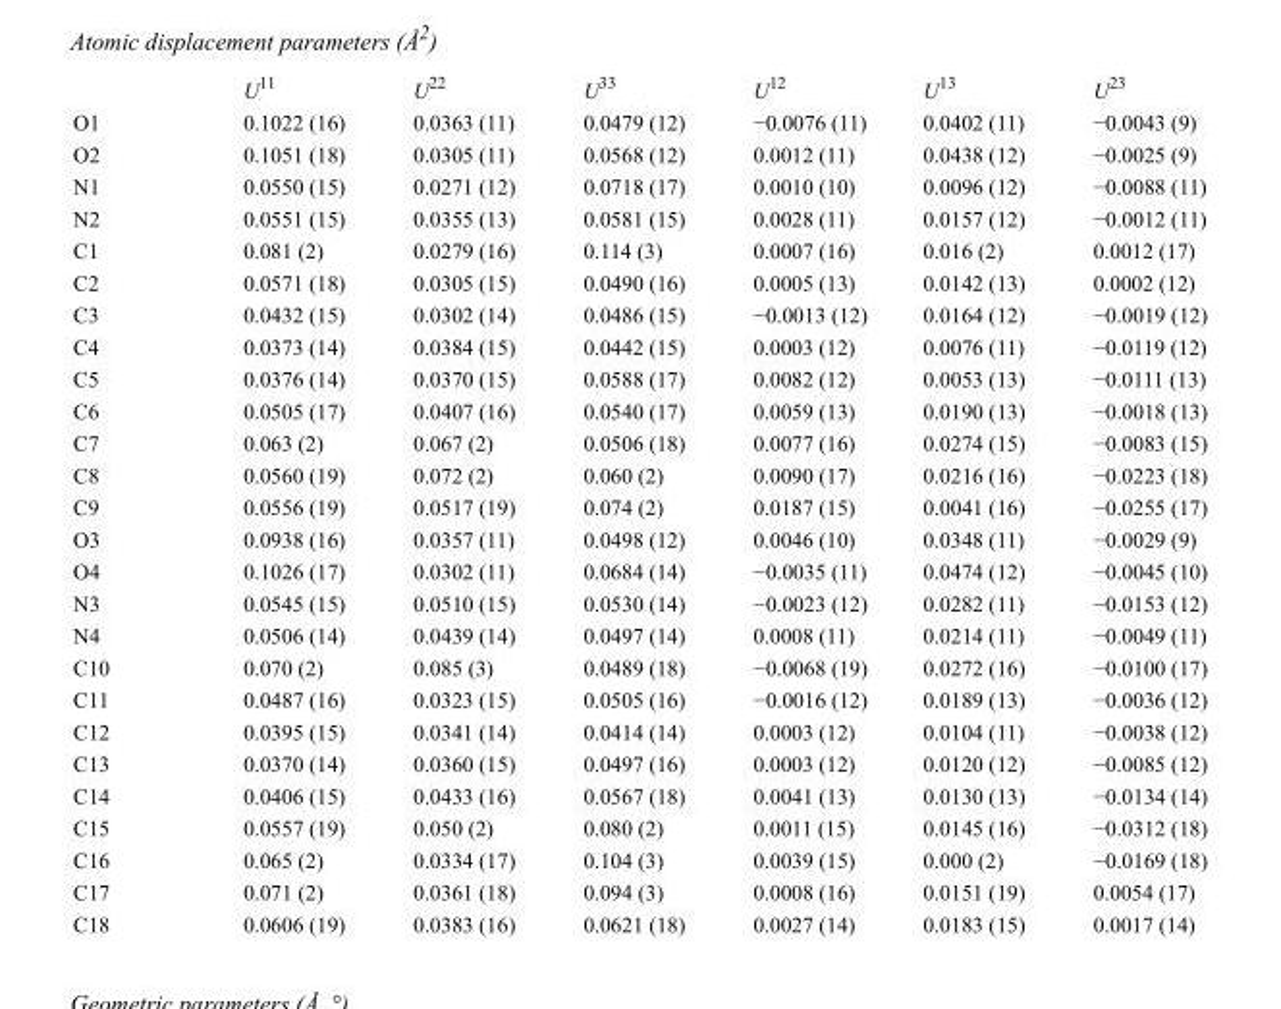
<table><thead><tr><td></td><td>U<sup>11</sup></td><td>U<sup>22</sup></td><td>U<sup>33</sup></td><td>U<sup>12</sup></td><td>U<sup>13</sup></td><td>U<sup>23</sup></td></tr></thead><tbody><tr><td>O1</td><td>0.1022 (16)</td><td>0.0363 (11)</td><td>0.0479 (12)</td><td>−0.0076 (11)</td><td>0.0402 (11)</td><td>−0.0043 (9)</td></tr><tr><td>O2</td><td>0.1051 (18)</td><td>0.0305 (11)</td><td>0.0568 (12)</td><td>0.0012 (11)</td><td>0.0438 (12)</td><td>−0.0025 (9)</td></tr><tr><td>N1</td><td>0.0550 (15)</td><td>0.0271 (12)</td><td>0.0718 (17)</td><td>0.0010 (10)</td><td>0.0096 (12)</td><td>−0.0088 (11)</td></tr><tr><td>N2</td><td>0.0551 (15)</td><td>0.0355 (13)</td><td>0.0581 (15)</td><td>0.0028 (11)</td><td>0.0157 (12)</td><td>−0.0012 (11)</td></tr><tr><td>C1</td><td>0.081 (2)</td><td>0.0279 (16)</td><td>0.114 (3)</td><td>0.0007 (16)</td><td>0.016 (2)</td><td>0.0012 (17)</td></tr><tr><td>C2</td><td>0.0571 (18)</td><td>0.0305 (15)</td><td>0.0490 (16)</td><td>0.0005 (13)</td><td>0.0142 (13)</td><td>0.0002 (12)</td></tr><tr><td>C3</td><td>0.0432 (15)</td><td>0.0302 (14)</td><td>0.0486 (15)</td><td>−0.0013 (12)</td><td>0.0164 (12)</td><td>−0.0019 (12)</td></tr><tr><td>C4</td><td>0.0373 (14)</td><td>0.0384 (15)</td><td>0.0442 (15)</td><td>0.0003 (12)</td><td>0.0076 (11)</td><td>−0.0119 (12)</td></tr><tr><td>C5</td><td>0.0376 (14)</td><td>0.0370 (15)</td><td>0.0588 (17)</td><td>0.0082 (12)</td><td>0.0053 (13)</td><td>−0.0111 (13)</td></tr><tr><td>C6</td><td>0.0505 (17)</td><td>0.0407 (16)</td><td>0.0540 (17)</td><td>0.0059 (13)</td><td>0.0190 (13)</td><td>−0.0018 (13)</td></tr><tr><td>C7</td><td>0.063 (2)</td><td>0.067 (2)</td><td>0.0506 (18)</td><td>0.0077 (16)</td><td>0.0274 (15)</td><td>−0.0083 (15)</td></tr><tr><td>C8</td><td>0.0560 (19)</td><td>0.072 (2)</td><td>0.060 (2)</td><td>0.0090 (17)</td><td>0.0216 (16)</td><td>−0.0223 (18)</td></tr><tr><td>C9</td><td>0.0556 (19)</td><td>0.0517 (19)</td><td>0.074 (2)</td><td>0.0187 (15)</td><td>0.0041 (16)</td><td>−0.0255 (17)</td></tr><tr><td>O3</td><td>0.0938 (16)</td><td>0.0357 (11)</td><td>0.0498 (12)</td><td>0.0046 (10)</td><td>0.0348 (11)</td><td>−0.0029 (9)</td></tr><tr><td>O4</td><td>0.1026 (17)</td><td>0.0302 (11)</td><td>0.0684 (14)</td><td>−0.0035 (11)</td><td>0.0474 (12)</td><td>−0.0045 (10)</td></tr><tr><td>N3</td><td>0.0545 (15)</td><td>0.0510 (15)</td><td>0.0530 (14)</td><td>−0.0023 (12)</td><td>0.0282 (11)</td><td>−0.0153 (12)</td></tr><tr><td>N4</td><td>0.0506 (14)</td><td>0.0439 (14)</td><td>0.0497 (14)</td><td>0.0008 (11)</td><td>0.0214 (11)</td><td>−0.0049 (11)</td></tr><tr><td>C10</td><td>0.070 (2)</td><td>0.085 (3)</td><td>0.0489 (18)</td><td>−0.0068 (19)</td><td>0.0272 (16)</td><td>−0.0100 (17)</td></tr><tr><td>C11</td><td>0.0487 (16)</td><td>0.0323 (15)</td><td>0.0505 (16)</td><td>−0.0016 (12)</td><td>0.0189 (13)</td><td>−0.0036 (12)</td></tr><tr><td>C12</td><td>0.0395 (15)</td><td>0.0341 (14)</td><td>0.0414 (14)</td><td>0.0003 (12)</td><td>0.0104 (11)</td><td>−0.0038 (12)</td></tr><tr><td>C13</td><td>0.0370 (14)</td><td>0.0360 (15)</td><td>0.0497 (16)</td><td>0.0003 (12)</td><td>0.0120 (12)</td><td>−0.0085 (12)</td></tr><tr><td>C14</td><td>0.0406 (15)</td><td>0.0433 (16)</td><td>0.0567 (18)</td><td>0.0041 (13)</td><td>0.0130 (13)</td><td>−0.0134 (14)</td></tr><tr><td>C15</td><td>0.0557 (19)</td><td>0.050 (2)</td><td>0.080 (2)</td><td>0.0011 (15)</td><td>0.0145 (16)</td><td>−0.0312 (18)</td></tr><tr><td>C16</td><td>0.065 (2)</td><td>0.0334 (17)</td><td>0.104 (3)</td><td>0.0039 (15)</td><td>0.000 (2)</td><td>−0.0169 (18)</td></tr><tr><td>C17</td><td>0.071 (2)</td><td>0.0361 (18)</td><td>0.094 (3)</td><td>0.0008 (16)</td><td>0.0151 (19)</td><td>0.0054 (17)</td></tr><tr><td>C18</td><td>0.0606 (19)</td><td>0.0383 (16)</td><td>0.0621 (18)</td><td>0.0027 (14)</td><td>0.0183 (15)</td><td>0.0017 (14)</td></tr></tbody></table>